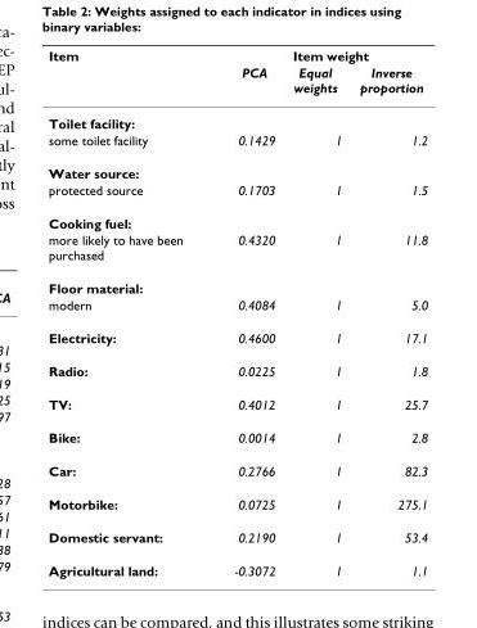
<table><thead><tr><td rowspan="2">Item</td><td colspan="3">Item weight</td></tr><tr><td>PCA</td><td>Equal weights</td><td>Inverse proportion</td></tr></thead><tbody><tr><td colspan="4">Toilet facility:</td></tr><tr><td>some toilet facility</td><td>0.1429</td><td>1</td><td>1.2</td></tr><tr><td colspan="4">Water source:</td></tr><tr><td>protected source</td><td>0.1703</td><td>1</td><td>1.5</td></tr><tr><td colspan="4">Cooking fuel:</td></tr><tr><td>more likely to have been purchased</td><td>0.4320</td><td>1</td><td>11.8</td></tr><tr><td colspan="4">Floor material:</td></tr><tr><td>modern</td><td>0.4084</td><td>1</td><td>5.0</td></tr><tr><td>Electricity:</td><td>0.4600</td><td>1</td><td>17.1</td></tr><tr><td>Radio:</td><td>0.0225</td><td>1</td><td>1.8</td></tr><tr><td>TV:</td><td>0.4012</td><td>1</td><td>25.7</td></tr><tr><td>Bike:</td><td>0.0014</td><td>1</td><td>2.8</td></tr><tr><td>Car:</td><td>0.2766</td><td>1</td><td>82.3</td></tr><tr><td>Motorbike:</td><td>0.0725</td><td>1</td><td>275.1</td></tr><tr><td>Domestic servant:</td><td>0.2190</td><td>1</td><td>53.4</td></tr><tr><td>Agricultural land:</td><td>-0.3072</td><td>1</td><td>1.1</td></tr></tbody></table>